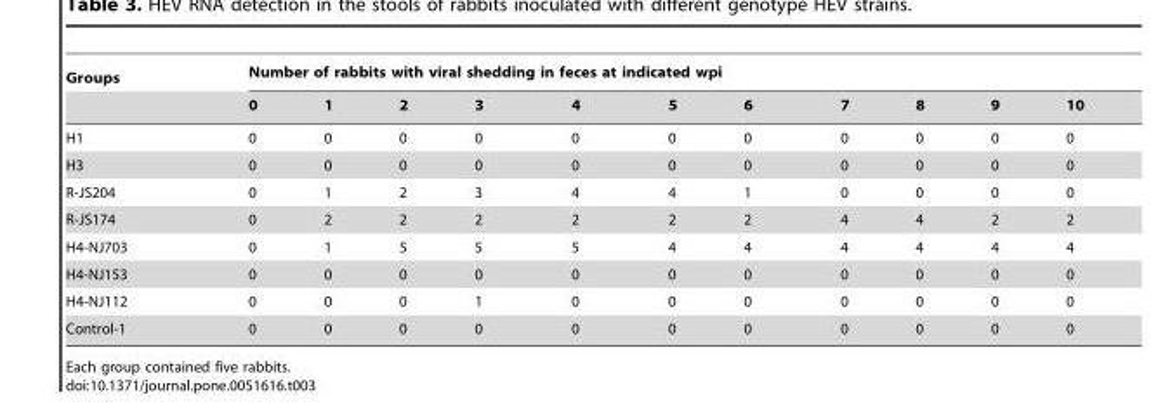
<table><thead><tr><td rowspan="2">Groups</td><td colspan="11">Number of rabbits with viral shedding in feces at indicated wpi</td></tr><tr><td>0</td><td>1</td><td>2</td><td>3</td><td>4</td><td>5</td><td>6</td><td>7</td><td>8</td><td>9</td><td>10</td></tr></thead><tbody><tr><td>H1</td><td>0</td><td>0</td><td>0</td><td>0</td><td>0</td><td>0</td><td>0</td><td>0</td><td>0</td><td>0</td><td>0</td></tr><tr><td>H3</td><td>0</td><td>0</td><td>0</td><td>0</td><td>0</td><td>0</td><td>0</td><td>0</td><td>0</td><td>0</td><td>0</td></tr><tr><td>R-JS204</td><td>0</td><td>1</td><td>2</td><td>3</td><td>4</td><td>4</td><td>1</td><td>0</td><td>0</td><td>0</td><td>0</td></tr><tr><td>R-JS174</td><td>0</td><td>2</td><td>2</td><td>2</td><td>2</td><td>2</td><td>2</td><td>4</td><td>4</td><td>2</td><td>2</td></tr><tr><td>H4-NJ703</td><td>0</td><td>1</td><td>5</td><td>5</td><td>5</td><td>4</td><td>4</td><td>4</td><td>4</td><td>4</td><td>4</td></tr><tr><td>H4-NJ153</td><td>0</td><td>0</td><td>0</td><td>0</td><td>0</td><td>0</td><td>0</td><td>0</td><td>0</td><td>0</td><td>0</td></tr><tr><td>H4-NJ112</td><td>0</td><td>0</td><td>0</td><td>1</td><td>0</td><td>0</td><td>0</td><td>0</td><td>0</td><td>0</td><td>0</td></tr><tr><td>Control-1</td><td>0</td><td>0</td><td>0</td><td>0</td><td>0</td><td>0</td><td>0</td><td>0</td><td>0</td><td>0</td><td>0</td></tr></tbody></table>